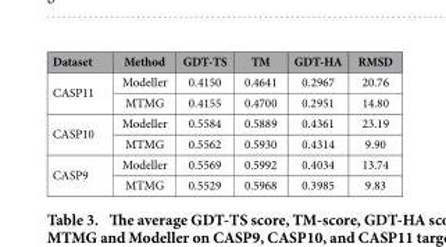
<table><thead><tr><td>Dataset</td><td>Method</td><td>GDT-TS</td><td>TM</td><td>GDT-HA</td><td>RMSD</td></tr></thead><tbody><tr><td rowspan="2">CASP11</td><td>Modeller</td><td>0.4150</td><td>0.4641</td><td>0.2967</td><td>20.76</td></tr><tr><td>MTMG</td><td>0.4155</td><td>0.4700</td><td>0.2951</td><td>14.80</td></tr><tr><td rowspan="2">CASP10</td><td>Modeller</td><td>0.5584</td><td>0.5889</td><td>0.4361</td><td>23.19</td></tr><tr><td>MTMG</td><td>0.5562</td><td>0.5930</td><td>0.4314</td><td>9.90</td></tr><tr><td rowspan="2">CASP9</td><td>Modeller</td><td>0.5569</td><td>0.5992</td><td>0.4034</td><td>13.74</td></tr><tr><td>MTMG</td><td>0.5529</td><td>0.5968</td><td>0.3985</td><td>9.83</td></tr></tbody></table>